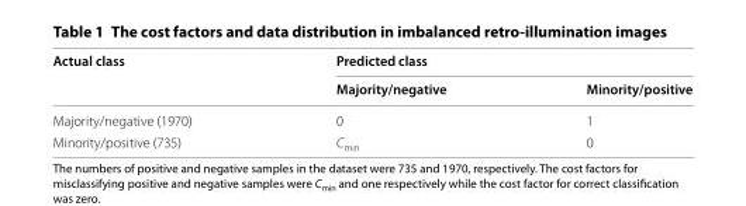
<table><thead><tr><td rowspan="2">Actual class</td><td colspan="2">Predicted class</td></tr><tr><td>Majority/negative</td><td>Minority/positive</td></tr></thead><tbody><tr><td>Majority/negative (1970)</td><td>0</td><td>1</td></tr><tr><td>Minority/positive (735)</td><td>C<sub>min</sub></td><td>0</td></tr></tbody></table>